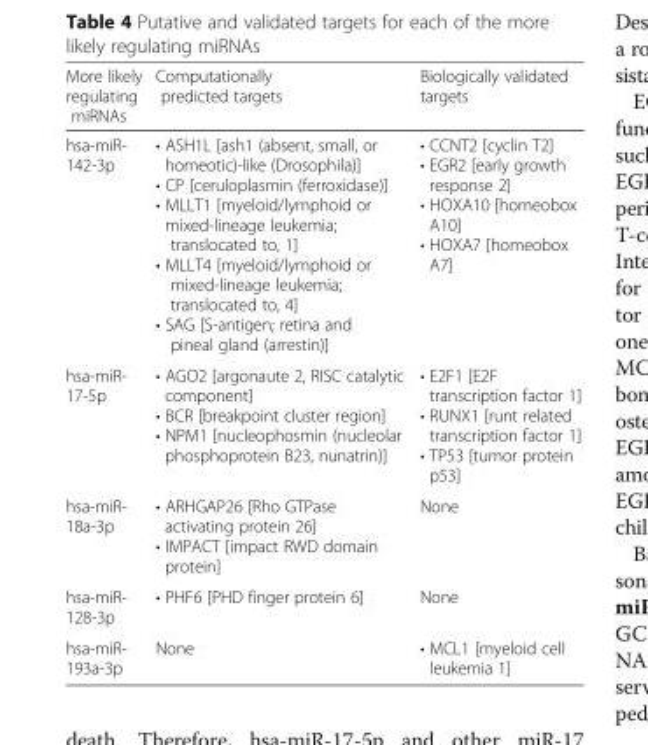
<table><thead><tr><td>More likely regulating miRNAs</td><td>Computationally predicted targets</td><td>Biologically validated targets</td></tr></thead><tbody><tr><td>hsa-miR- 142-3p</td><td>• ASH1L [ash1 (absent, small, or homeotic)-like (Drosophila)] • CP [ceruloplasmin (ferroxidase)] • MLLT1 [myeloid/lymphoid or mixed-lineage leukemia; translocated to, 1] • MLLT4 [myeloid/lymphoid or mixed-lineage leukemia; translocated to, 4] • SAG [S-antigen; retina and pineal gland (arrestin)]</td><td>• CCNT2 [cyclin T2] • EGR2 [early growth response 2] • HOXA10 [homeobox A10] • HOXA7 [homeobox A7]</td></tr><tr><td>hsa-miR- 17-5p</td><td>• AGO2 [argonaute 2, RISC catalytic component] • BCR [breakpoint cluster region] • NPM1 [nucleophosmin (nucleolar phosphoprotein B23, nunatrin)]</td><td>• E2F1 [E2F transcription factor 1] • RUNX1 [runt related transcription factor 1] • TP53 [tumor protein p53]</td></tr><tr><td>hsa-miR- 18a-3p</td><td>• ARHGAP26 [Rho GTPase activating protein 26] • IMPACT [impact RWD domain protein]</td><td>None</td></tr><tr><td>hsa-miR- 128-3p</td><td>• PHF6 [PHD finger protein 6]</td><td>None</td></tr><tr><td>hsa-miR- 193a-3p</td><td>None</td><td>• MCL1 [myeloid cell leukemia 1]</td></tr></tbody></table>